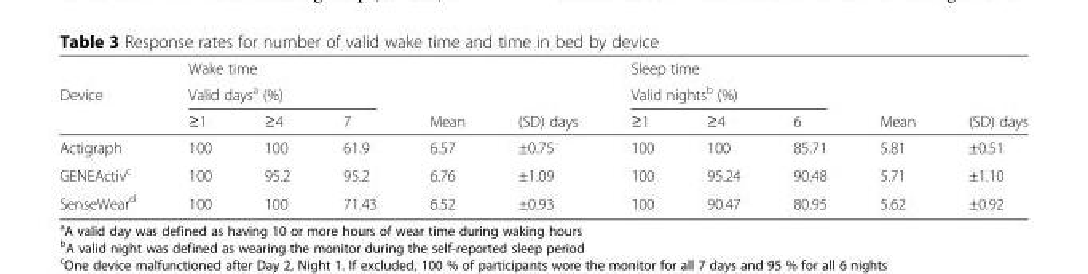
<table><thead><tr><td rowspan="3">Device</td><td colspan="5">Wake time</td><td colspan="5">Sleep time</td></tr><tr><td colspan="3">Valid days<sup>a</sup> (%)</td><td rowspan="2">Mean</td><td rowspan="2">(SD) days</td><td colspan="3">Valid nights<sup>b</sup> (%)</td><td rowspan="2">Mean</td><td rowspan="2">(SD) days</td></tr><tr><td>≥1</td><td>≥4</td><td>7</td><td>≥1</td><td>≥4</td><td>6</td></tr></thead><tbody><tr><td>Actigraph</td><td>100</td><td>100</td><td>61.9</td><td>6.57</td><td>±0.75</td><td>100</td><td>100</td><td>85.71</td><td>5.81</td><td>±0.51</td></tr><tr><td>GENEActiv<sup>c</sup></td><td>100</td><td>95.2</td><td>95.2</td><td>6.76</td><td>±1.09</td><td>100</td><td>95.24</td><td>90.48</td><td>5.71</td><td>±1.10</td></tr><tr><td>SenseWear<sup>d</sup></td><td>100</td><td>100</td><td>71.43</td><td>6.52</td><td>±0.93</td><td>100</td><td>90.47</td><td>80.95</td><td>5.62</td><td>±0.92</td></tr></tbody></table>